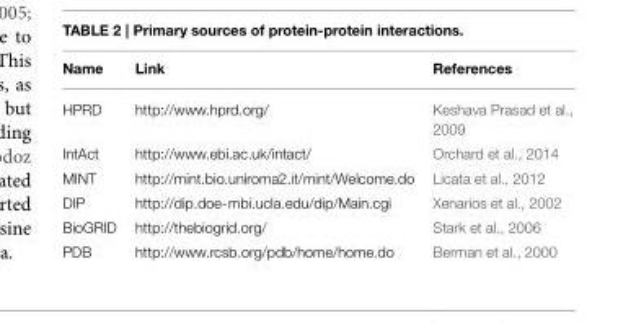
<table><thead><tr><td>Name</td><td>Link</td><td>References</td></tr></thead><tbody><tr><td>HPRD</td><td>http://www.hprd.org/</td><td>Keshava Prasad et al., 2009</td></tr><tr><td>IntAct</td><td>http://www.ebi.ac.uk/intact/</td><td>Orchard et al., 2014</td></tr><tr><td>MINT</td><td>http://mint.bio.uniroma2.it/mint/Welcome.do</td><td>Licata et al., 2012</td></tr><tr><td>DIP</td><td>http://dip.doe-mbi.ucla.edu/dip/Main.cgi</td><td>Xenarios et al., 2002</td></tr><tr><td>BioGRID</td><td>http://thebiogrid.org/</td><td>Stark et al., 2006</td></tr><tr><td>PDB</td><td>http://www.rcsb.org/pdb/home/home.do</td><td>Berman et al., 2000</td></tr></tbody></table>